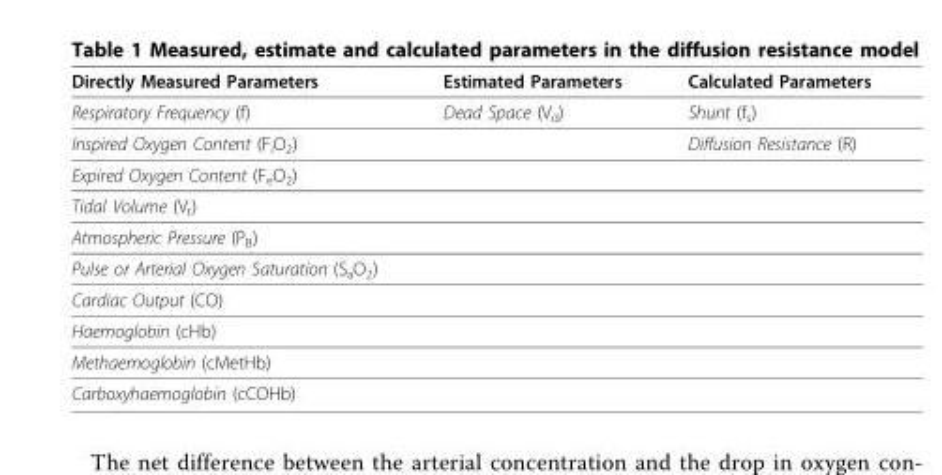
<table><thead><tr><td>Directly Measured Parameters</td><td>Estimated Parameters</td><td>Calculated Parameters</td></tr></thead><tbody><tr><td>Respiratory Frequency (f)</td><td>Dead Space (V<sub>d</sub>)</td><td>Shunt (f<sub>s</sub>)</td></tr><tr><td>Inspired Oxygen Content (F<sub>i</sub>O<sub>2</sub>)</td><td></td><td>Diffusion Resistance (R)</td></tr><tr><td colspan="3">Expired Oxygen Content (F<sub>e</sub>O<sub>2</sub>)</td></tr><tr><td colspan="3">Tidal Volume (V<sub>t</sub>)</td></tr><tr><td colspan="3">Atmospheric Pressure (P<sub>B</sub>)</td></tr><tr><td colspan="3">Pulse or Arterial Oxygen Saturation (S<sub>a</sub>O<sub>2</sub>)</td></tr><tr><td colspan="3">Cardiac Output (CO)</td></tr><tr><td colspan="3">Haemoglobin (cHb)</td></tr><tr><td colspan="3">Methaemoglobin (cMetHb)</td></tr><tr><td>Carboxyhaemoglobin (cCOHb)</td><td></td><td></td></tr></tbody></table>